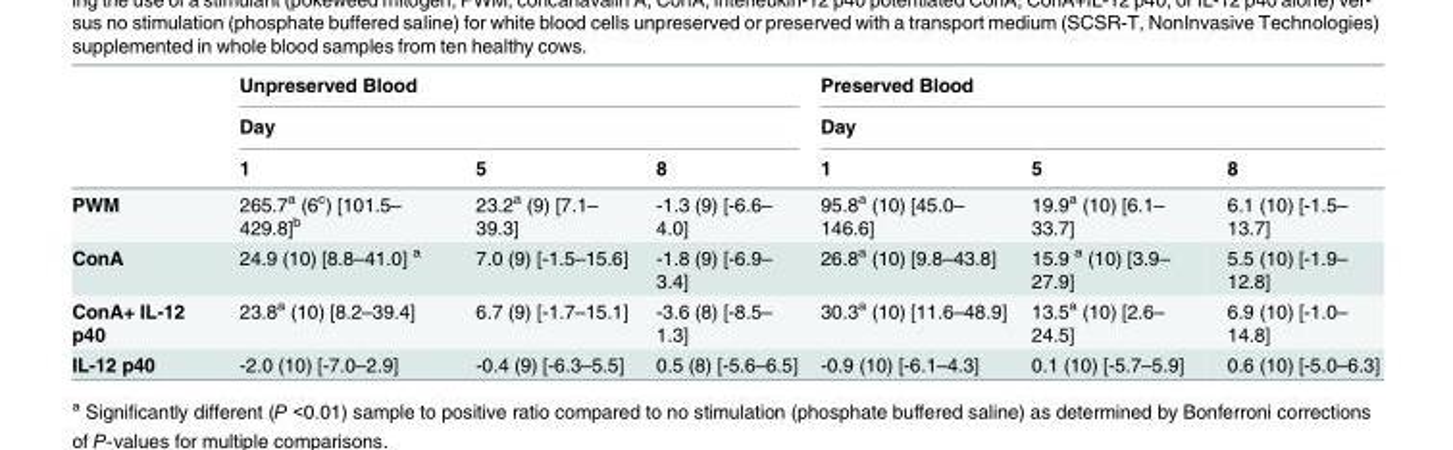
<table><thead><tr><td rowspan="3"></td><td rowspan="2" colspan="3">Unpreserved Blood Day</td><td rowspan="2" colspan="3">Preserved Blood Day</td></tr><tr></tr><tr><td>1</td><td>5</td><td>8</td><td>1</td><td>5</td><td>8</td></tr></thead><tbody><tr><td>PWM</td><td>265.7<sup>a</sup> (6<sup>c</sup>) [101.5– 429.8]<sup>b</sup></td><td>23.2<sup>a</sup> (9) [7.1– 39.3]</td><td>-1.3 (9) [-6.6– 4.0]</td><td>95.8<sup>a</sup> (10) [45.0– 146.6]</td><td>19.9<sup>a</sup> (10) [6.1– 33.7]</td><td>6.1 (10) [-1.5– 13.7]</td></tr><tr><td>ConA</td><td>24.9 (10) [8.8–41.0] <sup>a</sup></td><td>7.0 (9) [-1.5–15.6]</td><td>-1.8 (9) [-6.9– 3.4]</td><td>26.8<sup>a</sup> (10) [9.8–43.8]</td><td>15.9 <sup>a</sup> (10) [3.9– 27.9]</td><td>5.5 (10) [-1.9– 12.8]</td></tr><tr><td>ConA+ IL-12 p40</td><td>23.8<sup>a</sup> (10) [8.2–39.4]</td><td>6.7 (9) [-1.7–15.1]</td><td>-3.6 (8) [-8.5– 1.3]</td><td>30.3<sup>a</sup> (10) [11.6–48.9]</td><td>13.5<sup>a</sup> (10) [2.6– 24.5]</td><td>6.9 (10) [-1.0– 14.8]</td></tr><tr><td>IL-12 p40</td><td>-2.0 (10) [-7.0–2.9]</td><td>-0.4 (9) [-6.3–5.5]</td><td>0.5 (8) [-5.6–6.5]</td><td>-0.9 (10) [-6.1–4.3]</td><td>0.1 (10) [-5.7–5.9]</td><td>0.6 (10) [-5.0–6.3]</td></tr></tbody></table>